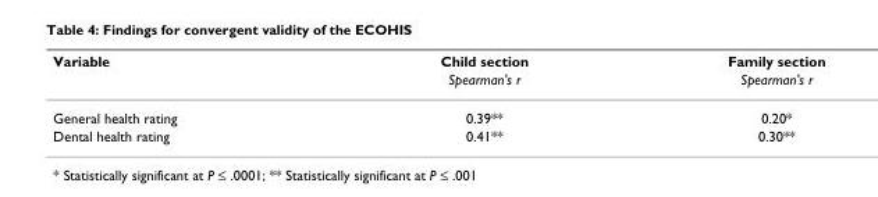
<table><thead><tr><td rowspan="2">Variable</td><td rowspan="2">Child section Spearman&#x27;s r</td><td rowspan="2">Family section Spearman&#x27;s r</td></tr><tr></tr></thead><tbody><tr><td>General health rating</td><td>0.39**</td><td>0.20*</td></tr><tr><td>Dental health rating</td><td>0.41**</td><td>0.30**</td></tr></tbody></table>